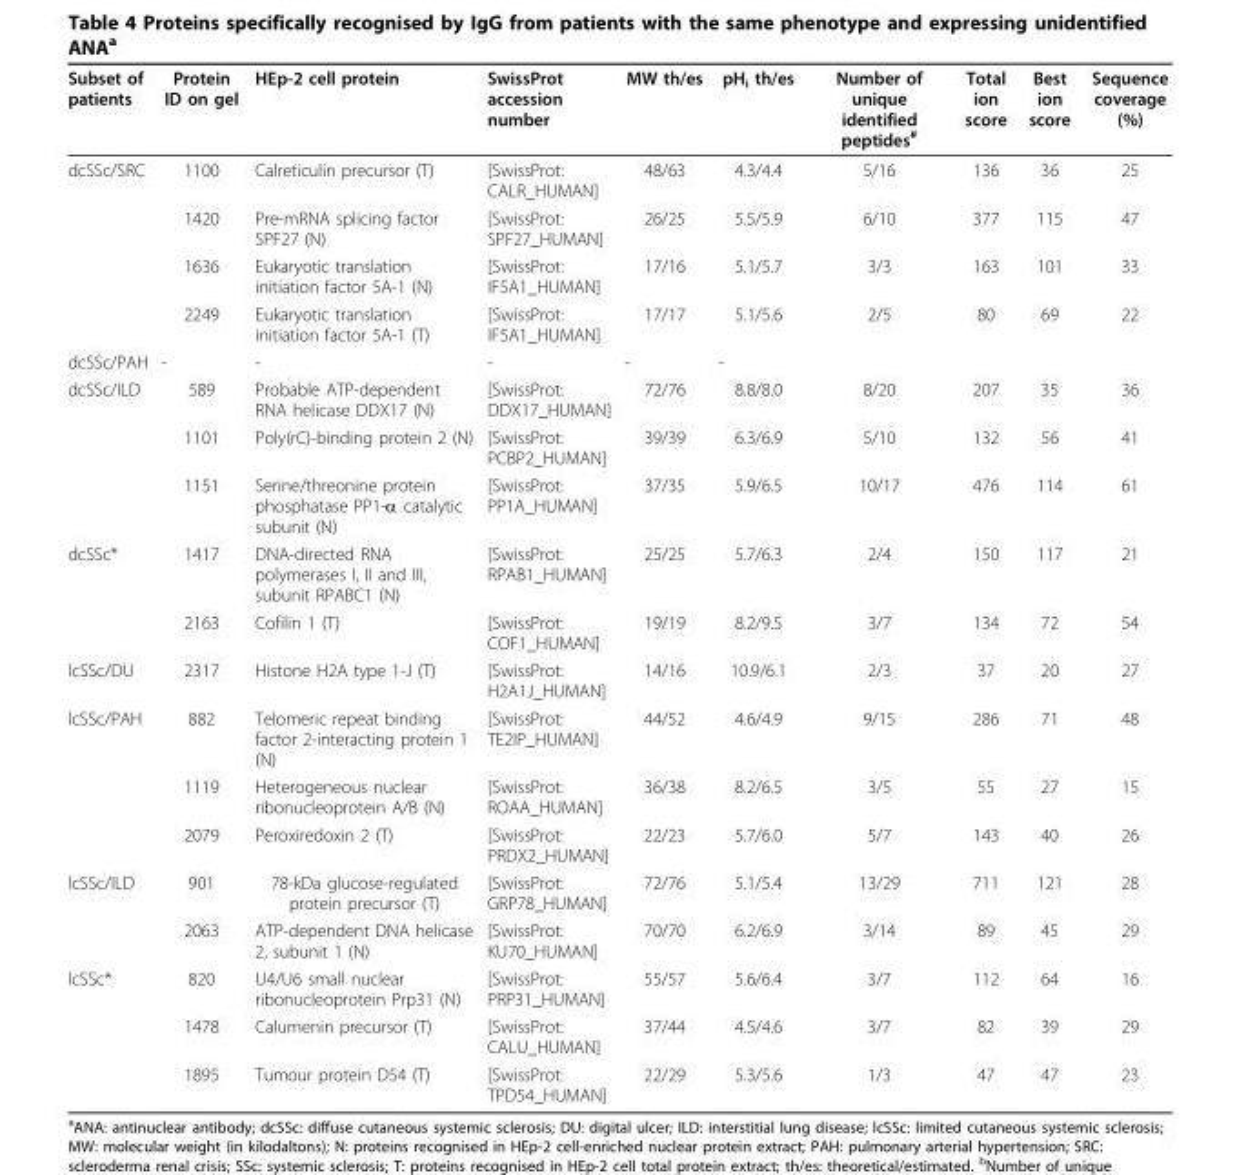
<table><thead><tr><td>Subset of patients</td><td>Protein ID on gel</td><td>HEp-2 cell protein</td><td>SwissProt accession number</td><td>MW th/es</td><td>pH<sub>i</sub> th/es</td><td>Number of unique identified peptides<sup>#</sup></td><td>Total ion score</td><td>Best ion score</td><td>Sequence coverage (%)</td></tr></thead><tbody><tr><td rowspan="4">dcSSc/SRC</td><td>1100</td><td>Calreticulin precursor (T)</td><td>[SwissProt: CALR_HUMAN]</td><td>48/63</td><td>4.3/4.4</td><td>5/16</td><td>136</td><td>36</td><td>25</td></tr><tr><td>1420</td><td>Pre-mRNA splicing factor SPF27 (N)</td><td>[SwissProt: SPF27_HUMAN]</td><td>26/25</td><td>5.5/5.9</td><td>6/10</td><td>377</td><td>115</td><td>47</td></tr><tr><td>1636</td><td>Eukaryotic translation initiation factor 5A-1 (N)</td><td>[SwissProt: IF5A1_HUMAN]</td><td>17/16</td><td>5.1/5.7</td><td>3/3</td><td>163</td><td>101</td><td>33</td></tr><tr><td>2249</td><td>Eukaryotic translation initiation factor 5A-1 (T)</td><td>[SwissProt: IF5A1_HUMAN]</td><td>17/17</td><td>5.1/5.6</td><td>2/5</td><td>80</td><td>69</td><td>22</td></tr><tr><td>dcSSc/PAH</td><td>-</td><td>-</td><td>-</td><td>-</td><td>-</td><td></td><td></td><td></td><td></td></tr><tr><td rowspan="3">dcSSc/ILD</td><td>589</td><td>Probable ATP-dependent RNA helicase DDX17 (N)</td><td>[SwissProt: DDX17_HUMAN]</td><td>72/76</td><td>8.8/8.0</td><td>8/20</td><td>207</td><td>35</td><td>36</td></tr><tr><td>1101</td><td>Poly(rC)-binding protein 2 (N)</td><td>[SwissProt: PCBP2_HUMAN]</td><td>39/39</td><td>6.3/6.9</td><td>5/10</td><td>132</td><td>56</td><td>41</td></tr><tr><td>1151</td><td>Serine/threonine protein phosphatase PP1-α catalytic subunit (N)</td><td>[SwissProt: PP1A_HUMAN]</td><td>37/35</td><td>5.9/6.5</td><td>10/17</td><td>476</td><td>114</td><td>61</td></tr><tr><td rowspan="2">dcSSc*</td><td>1417</td><td>DNA-directed RNA polymerases I, II and III, subunit RPABC1 (N)</td><td>[SwissProt: RPAB1_HUMAN]</td><td>25/25</td><td>5.7/6.3</td><td>2/4</td><td>150</td><td>117</td><td>21</td></tr><tr><td>2163</td><td>Cofilin 1 (T)</td><td>[SwissProt: COF1_HUMAN]</td><td>19/19</td><td>8.2/9.5</td><td>3/7</td><td>134</td><td>72</td><td>54</td></tr><tr><td>lcSSc/DU</td><td>2317</td><td>Histone H2A type 1-J (T)</td><td>[SwissProt: H2A1J_HUMAN]</td><td>14/16</td><td>10.9/6.1</td><td>2/3</td><td>37</td><td>20</td><td>27</td></tr><tr><td rowspan="3">lcSSc/PAH</td><td>882</td><td>Telomeric repeat binding factor 2-interacting protein 1 (N)</td><td>[SwissProt: TE2IP_HUMAN]</td><td>44/52</td><td>4.6/4.9</td><td>9/15</td><td>286</td><td>71</td><td>48</td></tr><tr><td>1119</td><td>Heterogeneous nuclear ribonucleoprotein A/B (N)</td><td>[SwissProt: ROAA_HUMAN]</td><td>36/38</td><td>8.2/6.5</td><td>3/5</td><td>55</td><td>27</td><td>15</td></tr><tr><td>2079</td><td>Peroxiredoxin 2 (T)</td><td>[SwissProt: PRDX2_HUMAN]</td><td>22/23</td><td>5.7/6.0</td><td>5/7</td><td>143</td><td>40</td><td>26</td></tr><tr><td rowspan="2">lcSSc/ILD</td><td>901</td><td>78-kDa glucose-regulated protein precursor (T)</td><td>[SwissProt: GRP78_HUMAN]</td><td>72/76</td><td>5.1/5.4</td><td>13/29</td><td>711</td><td>121</td><td>28</td></tr><tr><td>2063</td><td>ATP-dependent DNA helicase 2, subunit 1 (N)</td><td>[SwissProt: KU70_HUMAN]</td><td>70/70</td><td>6.2/6.9</td><td>3/14</td><td>89</td><td>45</td><td>29</td></tr><tr><td rowspan="3">lcSSc*</td><td>820</td><td>U4/U6 small nuclear ribonucleoprotein Prp31 (N)</td><td>[SwissProt: PRP31_HUMAN]</td><td>55/57</td><td>5.6/6.4</td><td>3/7</td><td>112</td><td>64</td><td>16</td></tr><tr><td>1478</td><td>Calumenin precursor (T)</td><td>[SwissProt: CALU_HUMAN]</td><td>37/44</td><td>4.5/4.6</td><td>3/7</td><td>82</td><td>39</td><td>29</td></tr><tr><td>1895</td><td>Tumour protein D54 (T)</td><td>[SwissProt: TPD54_HUMAN]</td><td>22/29</td><td>5.3/5.6</td><td>1/3</td><td>47</td><td>47</td><td>23</td></tr></tbody></table>